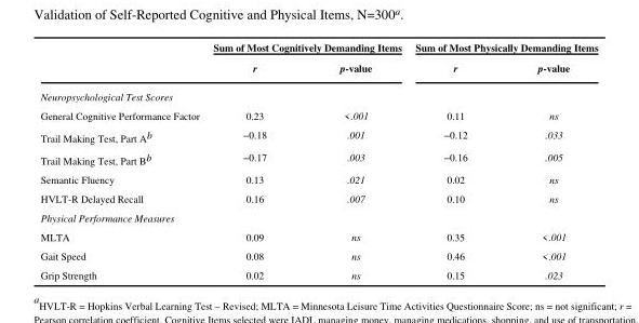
<table><thead><tr><td rowspan="2"></td><td colspan="2">Sum of Most Cognitively Demanding Items</td><td colspan="2">Sum of Most Physically Demanding Items</td></tr><tr><td>r</td><td>p-value</td><td>r</td><td>p-value</td></tr></thead><tbody><tr><td colspan="5">Neuropsychological Test Scores</td></tr><tr><td>General Cognitive Performance Factor</td><td>0.23</td><td>&lt;.001</td><td>0.11</td><td>ns</td></tr><tr><td>Trail Making Test, Part A<sup>b</sup></td><td>−0.18</td><td>.001</td><td>−0.12</td><td>.033</td></tr><tr><td>Trail Making Test, Part B<sup>b</sup></td><td>−0.17</td><td>.003</td><td>−0.16</td><td>.005</td></tr><tr><td>Semantic Fluency</td><td>0.13</td><td>.021</td><td>0.02</td><td>ns</td></tr><tr><td>HVLT-R Delayed Recall</td><td>0.16</td><td>.007</td><td>0.10</td><td>ns</td></tr><tr><td colspan="5">Physical Performance Measures</td></tr><tr><td>MLTA</td><td>0.09</td><td>ns</td><td>0.35</td><td>&lt;.001</td></tr><tr><td>Gait Speed</td><td>0.08</td><td>ns</td><td>0.46</td><td>&lt;.001</td></tr><tr><td>Grip Strength</td><td>0.02</td><td>ns</td><td>0.15</td><td>.023</td></tr></tbody></table>